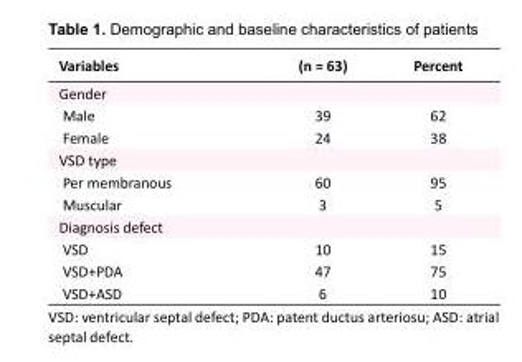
<table><tbody><tr><td>Variables</td><td>(n = 63)</td><td>Percent</td></tr><tr><td colspan="3">Gender</td></tr><tr><td>Male</td><td>39</td><td>62</td></tr><tr><td>Female</td><td>24</td><td>38</td></tr><tr><td colspan="3">VSD type</td></tr><tr><td>Per membranous</td><td>60</td><td>95</td></tr><tr><td>Muscular</td><td>3</td><td>5</td></tr><tr><td colspan="3">Diagnosis defect</td></tr><tr><td>VSD</td><td>10</td><td>15</td></tr><tr><td>VSD+PDA</td><td>47</td><td>75</td></tr><tr><td>VSD+ASD</td><td>6</td><td>10</td></tr></tbody></table>